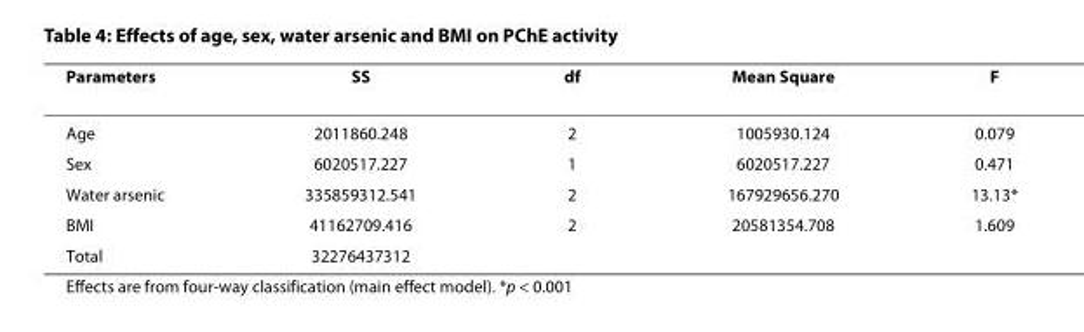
<table><thead><tr><td>Parameters</td><td>SS</td><td>df</td><td>Mean Square</td><td>F</td></tr></thead><tbody><tr><td>Age</td><td>2011860.248</td><td>2</td><td>1005930.124</td><td>0.079</td></tr><tr><td>Sex</td><td>6020517.227</td><td>1</td><td>6020517.227</td><td>0.471</td></tr><tr><td>Water arsenic</td><td>335859312.541</td><td>2</td><td>167929656.270</td><td>13.13*</td></tr><tr><td>BMI</td><td>41162709.416</td><td>2</td><td>20581354.708</td><td>1.609</td></tr><tr><td>Total</td><td>32276437312</td><td></td><td></td><td></td></tr></tbody></table>